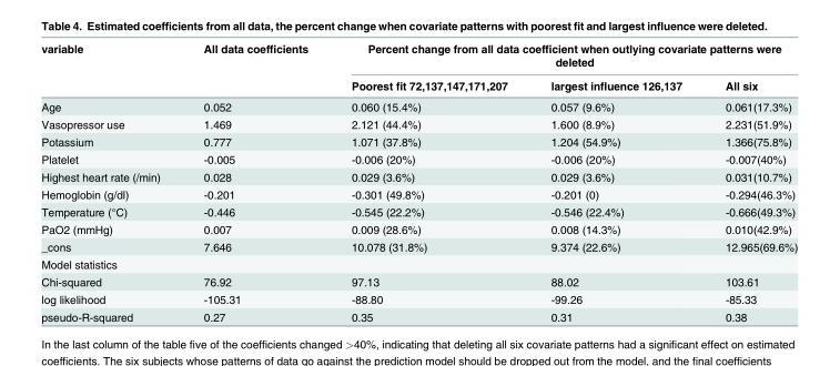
<table><thead><tr><td rowspan="2">variable</td><td rowspan="2">All data coefficients</td><td colspan="3">Percent change from all data coefficient when outlying covariate patterns were deleted</td></tr><tr><td>Poorest fit 72,137,147,171,207</td><td>largest influence 126,137</td><td>All six</td></tr></thead><tbody><tr><td>Age</td><td>0.052</td><td>0.060 (15.4%)</td><td>0.057 (9.6%)</td><td>0.061(17.3%)</td></tr><tr><td>Vasopressor use</td><td>1.469</td><td>2.121 (44.4%)</td><td>1.600 (8.9%)</td><td>2.231(51.9%)</td></tr><tr><td>Potassium</td><td>0.777</td><td>1.071 (37.8%)</td><td>1.204 (54.9%)</td><td>1.366(75.8%)</td></tr><tr><td>Platelet</td><td>-0.005</td><td>-0.006 (20%)</td><td>-0.006 (20%)</td><td>-0.007(40%)</td></tr><tr><td>Highest heart rate (/min)</td><td>0.028</td><td>0.029 (3.6%)</td><td>0.029 (3.6%)</td><td>0.031(10.7%)</td></tr><tr><td>Hemoglobin (g/dl)</td><td>-0.201</td><td>-0.301 (49.8%)</td><td>-0.201 (0)</td><td>-0.294(46.3%)</td></tr><tr><td>Temperature (°C)</td><td>-0.446</td><td>-0.545 (22.2%)</td><td>-0.546 (22.4%)</td><td>-0.666(49.3%)</td></tr><tr><td>PaO2 (mmHg)</td><td>0.007</td><td>0.009 (28.6%)</td><td>0.008 (14.3%)</td><td>0.010(42.9%)</td></tr><tr><td>_cons</td><td>7.646</td><td>10.078 (31.8%)</td><td>9.374 (22.6%)</td><td>12.965(69.6%)</td></tr><tr><td colspan="5">Model statistics</td></tr><tr><td>Chi-squared</td><td>76.92</td><td>97.13</td><td>88.02</td><td>103.61</td></tr><tr><td>log likelihood</td><td>-105.31</td><td>-88.80</td><td>-99.26</td><td>-85.33</td></tr><tr><td>pseudo-R-squared</td><td>0.27</td><td>0.35</td><td>0.31</td><td>0.38</td></tr></tbody></table>